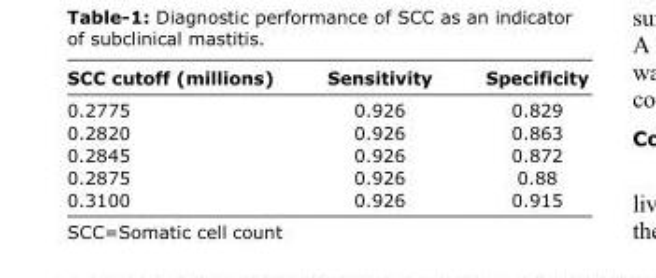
<table><thead><tr><td>SCC cutoff (millions)</td><td>Sensitivity</td><td>Specificity</td></tr></thead><tbody><tr><td>0.2775</td><td>0.926</td><td>0.829</td></tr><tr><td>0.2820</td><td>0.926</td><td>0.863</td></tr><tr><td>0.2845</td><td>0.926</td><td>0.872</td></tr><tr><td>0.2875</td><td>0.926</td><td>0.88</td></tr><tr><td>0.3100</td><td>0.926</td><td>0.915</td></tr></tbody></table>